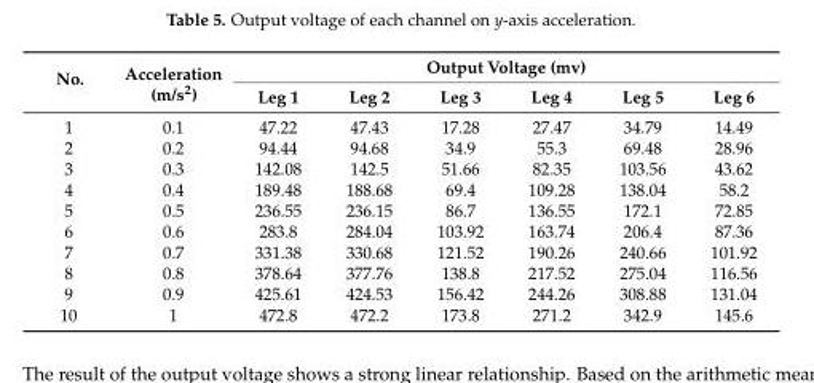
<table><thead><tr><td rowspan="2">No.</td><td rowspan="2">Acceleration (m/s<sup>2</sup>)</td><td colspan="6">Output Voltage (mv)</td></tr><tr><td>Leg 1</td><td>Leg 2</td><td>Leg 3</td><td>Leg 4</td><td>Leg 5</td><td>Leg 6</td></tr></thead><tbody><tr><td>1</td><td>0.1</td><td>47.22</td><td>47.43</td><td>17.28</td><td>27.47</td><td>34.79</td><td>14.49</td></tr><tr><td>2</td><td>0.2</td><td>94.44</td><td>94.68</td><td>34.9</td><td>55.3</td><td>69.48</td><td>28.96</td></tr><tr><td>3</td><td>0.3</td><td>142.08</td><td>142.5</td><td>51.66</td><td>82.35</td><td>103.56</td><td>43.62</td></tr><tr><td>4</td><td>0.4</td><td>189.48</td><td>188.68</td><td>69.4</td><td>109.28</td><td>138.04</td><td>58.2</td></tr><tr><td>5</td><td>0.5</td><td>236.55</td><td>236.15</td><td>86.7</td><td>136.55</td><td>172.1</td><td>72.85</td></tr><tr><td>6</td><td>0.6</td><td>283.8</td><td>284.04</td><td>103.92</td><td>163.74</td><td>206.4</td><td>87.36</td></tr><tr><td>7</td><td>0.7</td><td>331.38</td><td>330.68</td><td>121.52</td><td>190.26</td><td>240.66</td><td>101.92</td></tr><tr><td>8</td><td>0.8</td><td>378.64</td><td>377.76</td><td>138.8</td><td>217.52</td><td>275.04</td><td>116.56</td></tr><tr><td>9</td><td>0.9</td><td>425.61</td><td>424.53</td><td>156.42</td><td>244.26</td><td>308.88</td><td>131.04</td></tr><tr><td>10</td><td>1</td><td>472.8</td><td>472.2</td><td>173.8</td><td>271.2</td><td>342.9</td><td>145.6</td></tr></tbody></table>